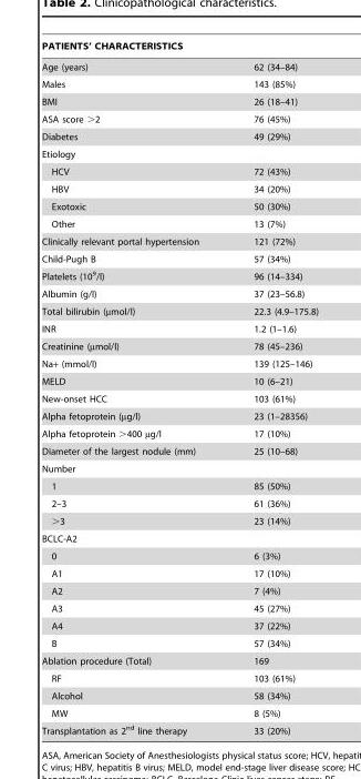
<table><thead><tr><td colspan="2">PATIENTS’ CHARACTERISTICS</td></tr><tr><td>Age (years)</td><td>62 (34–84)</td></tr></thead><tbody><tr><td>Males</td><td>143 (85%)</td></tr><tr><td>BMI</td><td>26 (18–41)</td></tr><tr><td>ASA score &gt;2</td><td>76 (45%)</td></tr><tr><td>Diabetes</td><td>49 (29%)</td></tr><tr><td colspan="2">Etiology</td></tr><tr><td>HCV</td><td>72 (43%)</td></tr><tr><td>HBV</td><td>34 (20%)</td></tr><tr><td>Exotoxic</td><td>50 (30%)</td></tr><tr><td>Other</td><td>13 (7%)</td></tr><tr><td>Clinically relevant portal hypertension</td><td>121 (72%)</td></tr><tr><td>Child-Pugh B</td><td>57 (34%)</td></tr><tr><td>Platelets (10<sup>9</sup>/l)</td><td>96 (14–334)</td></tr><tr><td>Albumin (g/l)</td><td>37 (23–56.8)</td></tr><tr><td>Total bilirubin (µmol/l)</td><td>22.3 (4.9–175.8)</td></tr><tr><td>INR</td><td>1.2 (1–1.6)</td></tr><tr><td>Creatinine (µmol/l)</td><td>78 (45–236)</td></tr><tr><td>Na+ (mmol/l)</td><td>139 (125–146)</td></tr><tr><td>MELD</td><td>10 (6–21)</td></tr><tr><td>New-onset HCC</td><td>103 (61%)</td></tr><tr><td>Alpha fetoprotein (µg/l)</td><td>23 (1–28356)</td></tr><tr><td>Alpha fetoprotein &gt;400 µg/l</td><td>17 (10%)</td></tr><tr><td>Diameter of the largest nodule (mm)</td><td>25 (10–68)</td></tr><tr><td colspan="2">Number</td></tr><tr><td>1</td><td>85 (50%)</td></tr><tr><td>2–3</td><td>61 (36%)</td></tr><tr><td>&gt;3</td><td>23 (14%)</td></tr><tr><td colspan="2">BCLC-A2</td></tr><tr><td>0</td><td>6 (3%)</td></tr><tr><td>A1</td><td>17 (10%)</td></tr><tr><td>A2</td><td>7 (4%)</td></tr><tr><td>A3</td><td>45 (27%)</td></tr><tr><td>A4</td><td>37 (22%)</td></tr><tr><td>B</td><td>57 (34%)</td></tr><tr><td>Ablation procedure (Total)</td><td>169</td></tr><tr><td>RF</td><td>103 (61%)</td></tr><tr><td>Alcohol</td><td>58 (34%)</td></tr><tr><td>MW</td><td>8 (5%)</td></tr><tr><td>Transplantation as 2<sup>nd</sup> line therapy</td><td>33 (20%)</td></tr></tbody></table>